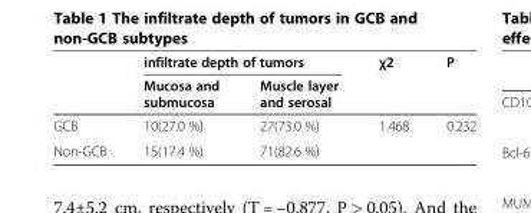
<table><thead><tr><td rowspan="2"></td><td colspan="2">infiltrate depth of tumors</td><td rowspan="2">χ2</td><td rowspan="2">P</td></tr><tr><td>Mucosa and submucosa</td><td>Muscle layer and serosal</td></tr></thead><tbody><tr><td>GCB</td><td>10(27.0 %)</td><td>27(73.0 %)</td><td>1.468</td><td>0.232</td></tr><tr><td>Non-GCB</td><td>15(17.4 %)</td><td>71(82.6 %)</td><td></td><td></td></tr></tbody></table>